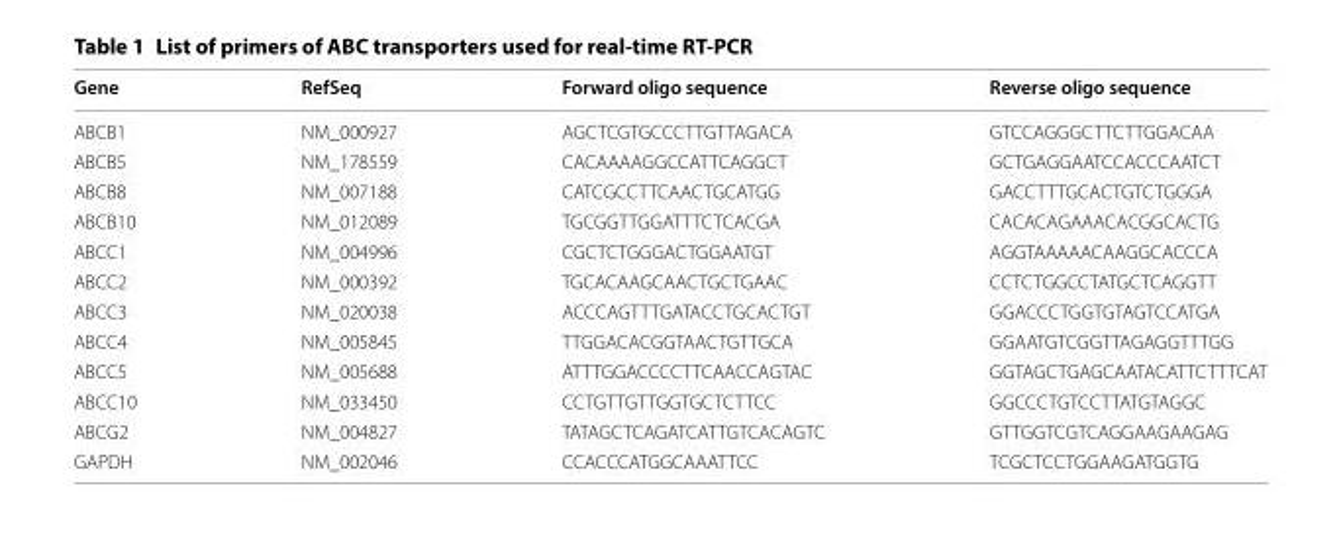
<table><thead><tr><td>Gene</td><td>RefSeq</td><td>Forward oligo sequence</td><td>Reverse oligo sequence</td></tr></thead><tbody><tr><td>ABCB1</td><td>NM_000927</td><td>AGC TCG TGC CCT TGT TAG ACA</td><td>GTC CAG GGC TTC TTG GAC AA</td></tr><tr><td>ABCB5</td><td>NM_178559</td><td>CAC AAA AGG CCA TTC AGG CT</td><td>GCT GAG GAA TCC ACC CAA TCT</td></tr><tr><td>ABCB8</td><td>NM_007188</td><td>CAT CGC CTT CAA CTG CAT GG</td><td>GAC CTT TGC ACT GTC TGG GA</td></tr><tr><td>ABCB10</td><td>NM_012089</td><td>TGC GGT TGG ATT TCT CAC GA</td><td>CAC ACA GAA ACA CGG CAC TG</td></tr><tr><td>ABCC1</td><td>NM_004996</td><td>CGC TCT GGG ACT GGA ATG T</td><td>AGG TAA AAA CAA GGC ACC CA</td></tr><tr><td>ABCC2</td><td>NM_000392</td><td>TGC ACA AGC AAC TGC TGA AC</td><td>CCT CTG GCC TAT GCT CAG GTT</td></tr><tr><td>ABCC3</td><td>NM_020038</td><td>ACC CAG TTT GAT ACC TGC ACTGT</td><td>GGA CCC TGG TGT AGT CCA TGA</td></tr><tr><td>ABCC4</td><td>NM_005845</td><td>TTG GAC ACG GTA ACT GTT GCA</td><td>GGA ATG TCG GTT AGA GGT TTGG</td></tr><tr><td>ABCC5</td><td>NM_005688</td><td>ATT TGG ACC CCT TCA ACC AGTAC</td><td>GGT AGC TGA GCA ATA CAT TCT TTC AT</td></tr><tr><td>ABCC10</td><td>NM_033450</td><td>CCT GTT GTT GGT GCT CTT CC</td><td>GGC CCT GTC CTT ATG TAG GC</td></tr><tr><td>ABCG2</td><td>NM_004827</td><td>TAT AGC TCA GAT CAT TGT CAC AGT C</td><td>GTT GGT CGT CAG GAA GAA GAG</td></tr><tr><td>GAPDH</td><td>NM_002046</td><td>CCA CCC ATG GCA AAT TCC</td><td>TCG CTC CTG GAA GAT GGT G</td></tr></tbody></table>